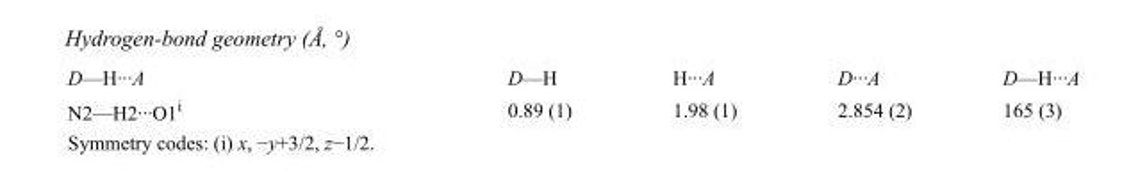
<table><tbody><tr><td>D—H···A</td><td>D—H</td><td>H···A</td><td>D···A</td><td>D—H···A</td></tr><tr><td>N2—H2···O1<sup>i</sup></td><td>0.89 (1)</td><td>1.98 (1)</td><td>2.854 (2)</td><td>165 (3)</td></tr></tbody></table>